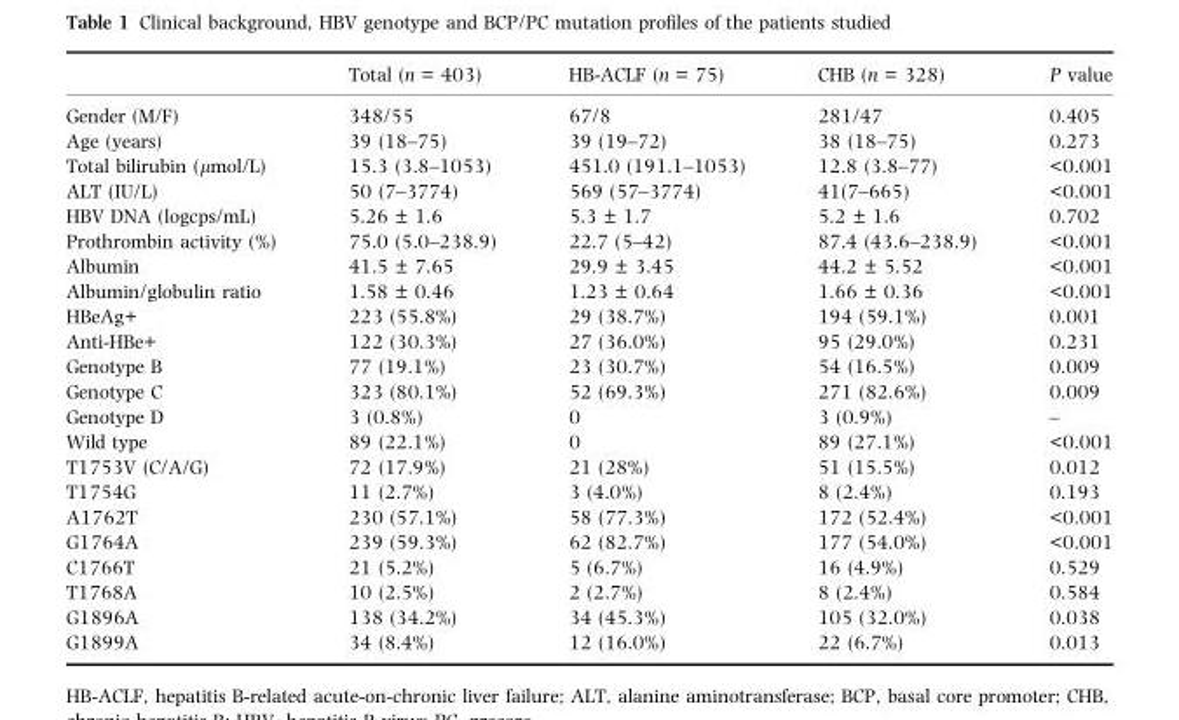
<table><thead><tr><td></td><td>Total (n = 403)</td><td>HB-ACLF (n = 75)</td><td>CHB (n = 328)</td><td>P value</td></tr></thead><tbody><tr><td>Gender (M/F)</td><td>348/55</td><td>67/8</td><td>281/47</td><td>0.405</td></tr><tr><td>Age (years)</td><td>39 (18–75)</td><td>39 (19–72)</td><td>38 (18–75)</td><td>0.273</td></tr><tr><td>Total bilirubin (μmol/L)</td><td>15.3 (3.8–1053)</td><td>451.0 (191.1–1053)</td><td>12.8 (3.8–77)</td><td>&lt;0.001</td></tr><tr><td>ALT (IU/L)</td><td>50 (7–3774)</td><td>569 (57–3774)</td><td>41(7–665)</td><td>&lt;0.001</td></tr><tr><td>HBV DNA (logcps/mL)</td><td>5.26 ± 1.6</td><td>5.3 ± 1.7</td><td>5.2 ± 1.6</td><td>0.702</td></tr><tr><td>Prothrombin activity (%)</td><td>75.0 (5.0–238.9)</td><td>22.7 (5–42)</td><td>87.4 (43.6–238.9)</td><td>&lt;0.001</td></tr><tr><td>Albumin</td><td>41.5 ± 7.65</td><td>29.9 ± 3.45</td><td>44.2 ± 5.52</td><td>&lt;0.001</td></tr><tr><td>Albumin/globulin ratio</td><td>1.58 ± 0.46</td><td>1.23 ± 0.64</td><td>1.66 ± 0.36</td><td>&lt;0.001</td></tr><tr><td>HBeAg+</td><td>223 (55.8%)</td><td>29 (38.7%)</td><td>194 (59.1%)</td><td>0.001</td></tr><tr><td>Anti-HBe+</td><td>122 (30.3%)</td><td>27 (36.0%)</td><td>95 (29.0%)</td><td>0.231</td></tr><tr><td>Genotype B</td><td>77 (19.1%)</td><td>23 (30.7%)</td><td>54 (16.5%)</td><td>0.009</td></tr><tr><td>Genotype C</td><td>323 (80.1%)</td><td>52 (69.3%)</td><td>271 (82.6%)</td><td>0.009</td></tr><tr><td>Genotype D</td><td>3 (0.8%)</td><td>0</td><td>3 (0.9%)</td><td>–</td></tr><tr><td>Wild type</td><td>89 (22.1%)</td><td>0</td><td>89 (27.1%)</td><td>&lt;0.001</td></tr><tr><td>T1753V (C/A/G)</td><td>72 (17.9%)</td><td>21 (28%)</td><td>51 (15.5%)</td><td>0.012</td></tr><tr><td>T1754G</td><td>11 (2.7%)</td><td>3 (4.0%)</td><td>8 (2.4%)</td><td>0.193</td></tr><tr><td>A1762T</td><td>230 (57.1%)</td><td>58 (77.3%)</td><td>172 (52.4%)</td><td>&lt;0.001</td></tr><tr><td>G1764A</td><td>239 (59.3%)</td><td>62 (82.7%)</td><td>177 (54.0%)</td><td>&lt;0.001</td></tr><tr><td>C1766T</td><td>21 (5.2%)</td><td>5 (6.7%)</td><td>16 (4.9%)</td><td>0.529</td></tr><tr><td>T1768A</td><td>10 (2.5%)</td><td>2 (2.7%)</td><td>8 (2.4%)</td><td>0.584</td></tr><tr><td>G1896A</td><td>138 (34.2%)</td><td>34 (45.3%)</td><td>105 (32.0%)</td><td>0.038</td></tr><tr><td>G1899A</td><td>34 (8.4%)</td><td>12 (16.0%)</td><td>22 (6.7%)</td><td>0.013</td></tr></tbody></table>